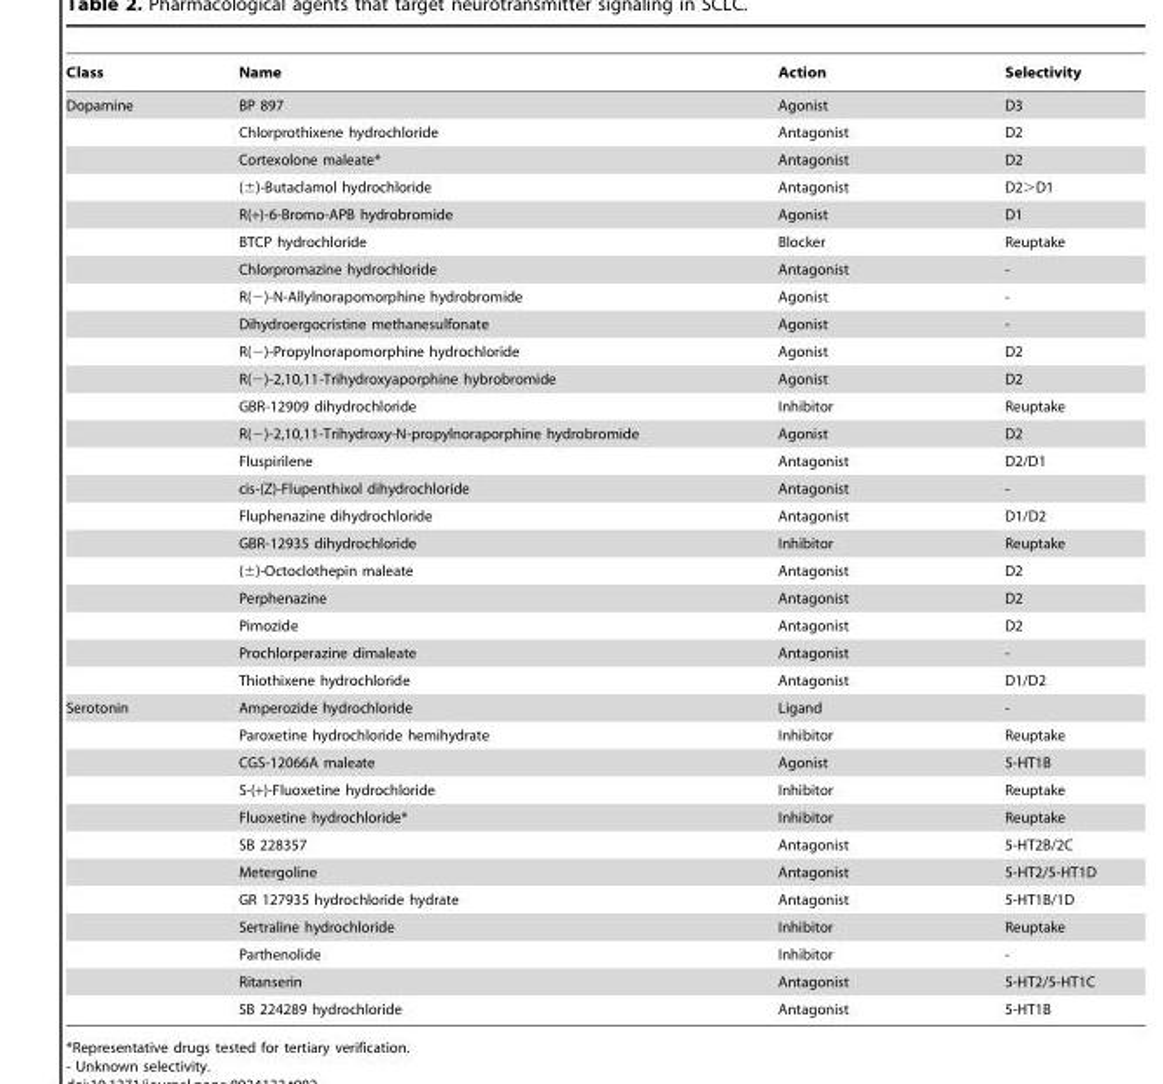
<table><thead><tr><td>Class</td><td>Name</td><td>Action</td><td>Selectivity</td></tr></thead><tbody><tr><td rowspan="22">Dopamine</td><td>BP 897</td><td>Agonist</td><td>D3</td></tr><tr><td>Chlorprothixene hydrochloride</td><td>Antagonist</td><td>D2</td></tr><tr><td>Cortexolone maleate*</td><td>Antagonist</td><td>D2</td></tr><tr><td>(±)-Butaclamol hydrochloride</td><td>Antagonist</td><td>D2&gt;D1</td></tr><tr><td>R(+)-6-Bromo-APB hydrobromide</td><td>Agonist</td><td>D1</td></tr><tr><td>BTCP hydrochloride</td><td>Blocker</td><td>Reuptake</td></tr><tr><td>Chlorpromazine hydrochloride</td><td>Antagonist</td><td>-</td></tr><tr><td>R(−)-N-Allylnorapomorphine hydrobromide</td><td>Agonist</td><td>-</td></tr><tr><td>Dihydroergocristine methanesulfonate</td><td>Agonist</td><td>-</td></tr><tr><td>R(−)-Propylnorapomorphine hydrochloride</td><td>Agonist</td><td>D2</td></tr><tr><td>R(−)-2,10,11-Trihydroxyaporphine hybrobromide</td><td>Agonist</td><td>D2</td></tr><tr><td>GBR-12909 dihydrochloride</td><td>Inhibitor</td><td>Reuptake</td></tr><tr><td>R(−)-2,10,11-Trihydroxy-N-propylnoraporphine hydrobromide</td><td>Agonist</td><td>D2</td></tr><tr><td>Fluspirilene</td><td>Antagonist</td><td>D2/D1</td></tr><tr><td>cis-(Z)-Flupenthixol dihydrochloride</td><td>Antagonist</td><td>-</td></tr><tr><td>Fluphenazine dihydrochloride</td><td>Antagonist</td><td>D1/D2</td></tr><tr><td>GBR-12935 dihydrochloride</td><td>Inhibitor</td><td>Reuptake</td></tr><tr><td>(±)-Octoclothepin maleate</td><td>Antagonist</td><td>D2</td></tr><tr><td>Perphenazine</td><td>Antagonist</td><td>D2</td></tr><tr><td>Pimozide</td><td>Antagonist</td><td>D2</td></tr><tr><td>Prochlorperazine dimaleate</td><td>Antagonist</td><td>-</td></tr><tr><td>Thiothixene hydrochloride</td><td>Antagonist</td><td>D1/D2</td></tr><tr><td rowspan="12">Serotonin</td><td>Amperozide hydrochloride</td><td>Ligand</td><td>-</td></tr><tr><td>Paroxetine hydrochloride hemihydrate</td><td>Inhibitor</td><td>Reuptake</td></tr><tr><td>CGS-12066A maleate</td><td>Agonist</td><td>5-HT1B</td></tr><tr><td>S-(+)-Fluoxetine hydrochloride</td><td>Inhibitor</td><td>Reuptake</td></tr><tr><td>Fluoxetine hydrochloride*</td><td>Inhibitor</td><td>Reuptake</td></tr><tr><td>SB 228357</td><td>Antagonist</td><td>5-HT2B/2C</td></tr><tr><td>Metergoline</td><td>Antagonist</td><td>5-HT2/5-HT1D</td></tr><tr><td>GR 127935 hydrochloride hydrate</td><td>Antagonist</td><td>5-HT1B/1D</td></tr><tr><td>Sertraline hydrochloride</td><td>Inhibitor</td><td>Reuptake</td></tr><tr><td>Parthenolide</td><td>Inhibitor</td><td>-</td></tr><tr><td>Ritanserin</td><td>Antagonist</td><td>5-HT2/5-HT1C</td></tr><tr><td>SB 224289 hydrochloride</td><td>Antagonist</td><td>5-HT1B</td></tr></tbody></table>